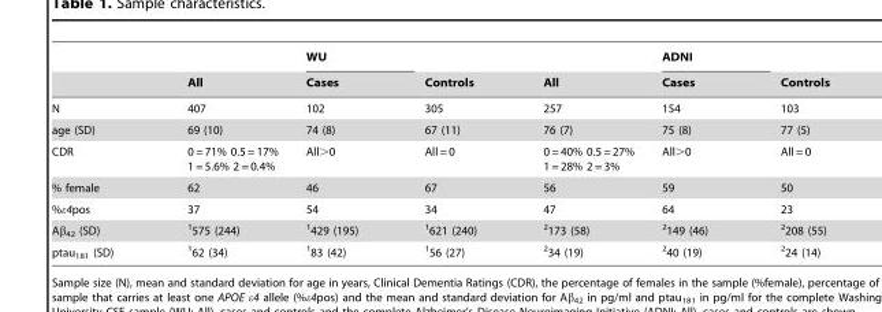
<table><thead><tr><td rowspan="2"></td><td rowspan="2">All</td><td rowspan="2">WU Cases</td><td rowspan="2">Controls</td><td rowspan="2">All</td><td rowspan="2">ADNI Cases</td><td rowspan="2">Controls</td></tr><tr></tr></thead><tbody><tr><td>N</td><td>407</td><td>102</td><td>305</td><td>257</td><td>154</td><td>103</td></tr><tr><td>age (SD)</td><td>69 (10)</td><td>74 (8)</td><td>67 (11)</td><td>76 (7)</td><td>75 (8)</td><td>77 (5)</td></tr><tr><td>CDR</td><td>0 = 71% 0.5 = 17% 1 = 5.6% 2 = 0.4%</td><td>All&gt;0</td><td>All = 0</td><td>0 = 40% 0.5 = 27% 1 = 28% 2 = 3%</td><td>All&gt;0</td><td>All = 0</td></tr><tr><td>% female</td><td>62</td><td>46</td><td>67</td><td>56</td><td>59</td><td>50</td></tr><tr><td>%ε4pos</td><td>37</td><td>54</td><td>34</td><td>47</td><td>64</td><td>23</td></tr><tr><td>Aβ<sub>42</sub> (SD)</td><td>1575 (244)</td><td>1429 (195)</td><td>1621 (240)</td><td>2173 (58)</td><td>2149 (46)</td><td>2208 (55)</td></tr><tr><td>ptau<sub>181</sub> (SD)</td><td>162 (34)</td><td>183 (42)</td><td>156 (27)</td><td>234 (19)</td><td>240 (19)</td><td>224 (14)</td></tr></tbody></table>